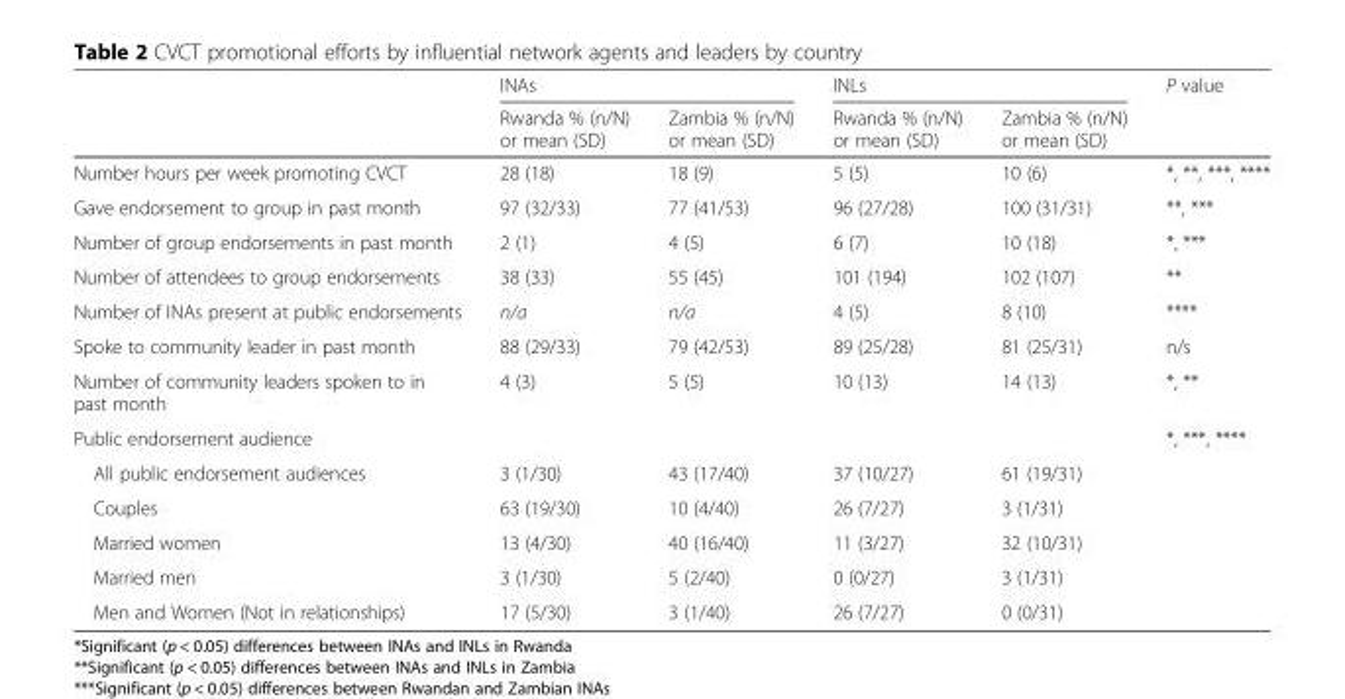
<table><thead><tr><td rowspan="2"></td><td colspan="2">INAs</td><td colspan="2">INLs</td><td rowspan="2">P value</td></tr><tr><td>Rwanda % (n/N) or mean (SD)</td><td>Zambia % (n/N) or mean (SD)</td><td>Rwanda % (n/N) or mean (SD)</td><td>Zambia % (n/N) or mean (SD)</td></tr></thead><tbody><tr><td>Number hours per week promoting CVCT</td><td>28 (18)</td><td>18 (9)</td><td>5 (5)</td><td>10 (6)</td><td>*, **, ***, ****</td></tr><tr><td>Gave endorsement to group in past month</td><td>97 (32/33)</td><td>77 (41/53)</td><td>96 (27/28)</td><td>100 (31/31)</td><td>**, ***</td></tr><tr><td>Number of group endorsements in past month</td><td>2 (1)</td><td>4 (5)</td><td>6 (7)</td><td>10 (18)</td><td>*, ***</td></tr><tr><td>Number of attendees to group endorsements</td><td>38 (33)</td><td>55 (45)</td><td>101 (194)</td><td>102 (107)</td><td>**</td></tr><tr><td>Number of INAs present at public endorsements</td><td>n/a</td><td>n/a</td><td>4 (5)</td><td>8 (10)</td><td>****</td></tr><tr><td>Spoke to community leader in past month</td><td>88 (29/33)</td><td>79 (42/53)</td><td>89 (25/28)</td><td>81 (25/31)</td><td>n/s</td></tr><tr><td>Number of community leaders spoken to in past month</td><td>4 (3)</td><td>5 (5)</td><td>10 (13)</td><td>14 (13)</td><td>*, **</td></tr><tr><td colspan="5">Public endorsement audience</td><td rowspan="6">*, ***, ****</td></tr><tr><td>All public endorsement audiences</td><td>3 (1/30)</td><td>43 (17/40)</td><td>37 (10/27)</td><td>61 (19/31)</td></tr><tr><td>Couples</td><td>63 (19/30)</td><td>10 (4/40)</td><td>26 (7/27)</td><td>3 (1/31)</td></tr><tr><td>Married women</td><td>13 (4/30)</td><td>40 (16/40)</td><td>11 (3/27)</td><td>32 (10/31)</td></tr><tr><td>Married men</td><td>3 (1/30)</td><td>5 (2/40)</td><td>0 (0/27)</td><td>3 (1/31)</td></tr><tr><td>Men and Women (Not in relationships)</td><td>17 (5/30)</td><td>3 (1/40)</td><td>26 (7/27)</td><td>0 (0/31)</td></tr></tbody></table>